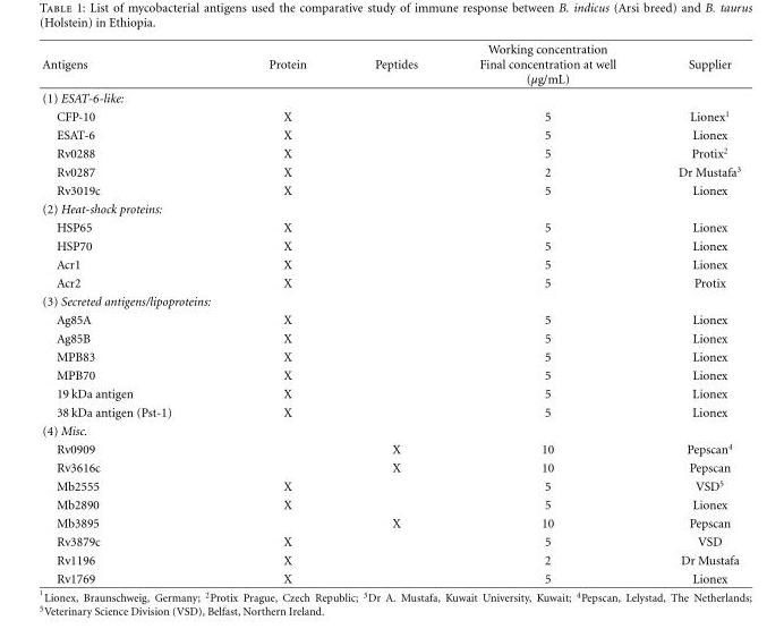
<table><thead><tr><td>Antigens</td><td>Protein</td><td>Peptides</td><td>Working concentration Final concentration at well (μg/mL)</td><td>Supplier</td></tr></thead><tbody><tr><td colspan="5">(1) ESAT-6-like:</td></tr><tr><td>CFP-10</td><td>X</td><td></td><td>5</td><td>Lionex<sup>1</sup></td></tr><tr><td>ESAT-6</td><td>X</td><td></td><td>5</td><td>Lionex</td></tr><tr><td>Rv0288</td><td>X</td><td></td><td>5</td><td>Protix<sup>2</sup></td></tr><tr><td>Rv0287</td><td>X</td><td></td><td>2</td><td>Dr Mustafa<sup>3</sup></td></tr><tr><td>Rv3019c</td><td>X</td><td></td><td>5</td><td>Lionex</td></tr><tr><td colspan="5">(2) Heat-shock proteins:</td></tr><tr><td>HSP65</td><td>X</td><td></td><td>5</td><td>Lionex</td></tr><tr><td>HSP70</td><td>X</td><td></td><td>5</td><td>Lionex</td></tr><tr><td>Acr1</td><td>X</td><td></td><td>5</td><td>Lionex</td></tr><tr><td>Acr2</td><td>X</td><td></td><td>5</td><td>Protix</td></tr><tr><td colspan="5">(3) Secreted antigens/lipoproteins:</td></tr><tr><td>Ag85A</td><td>X</td><td></td><td>5</td><td>Lionex</td></tr><tr><td>Ag85B</td><td>X</td><td></td><td>5</td><td>Lionex</td></tr><tr><td>MPB83</td><td>X</td><td></td><td>5</td><td>Lionex</td></tr><tr><td>MPB70</td><td>X</td><td></td><td>5</td><td>Lionex</td></tr><tr><td>19 kDa antigen</td><td>X</td><td></td><td>5</td><td>Lionex</td></tr><tr><td>38 kDa antigen (Pst-1)</td><td>X</td><td></td><td>5</td><td>Lionex</td></tr><tr><td colspan="5">(4) Misc.</td></tr><tr><td>Rv0909</td><td></td><td>X</td><td>10</td><td>Pepscan<sup>4</sup></td></tr><tr><td>Rv3616c</td><td></td><td>X</td><td>10</td><td>Pepscan</td></tr><tr><td>Mb2555</td><td>X</td><td></td><td>5</td><td>VSD<sup>5</sup></td></tr><tr><td>Mb2890</td><td>X</td><td></td><td>5</td><td>Lionex</td></tr><tr><td>Mb3895</td><td></td><td>X</td><td>10</td><td>Pepscan</td></tr><tr><td>Rv3879c</td><td>X</td><td></td><td>5</td><td>VSD</td></tr><tr><td>Rv1196</td><td>X</td><td></td><td>2</td><td>Dr Mustafa</td></tr><tr><td>Rv1769</td><td>X</td><td></td><td>5</td><td>Lionex</td></tr></tbody></table>